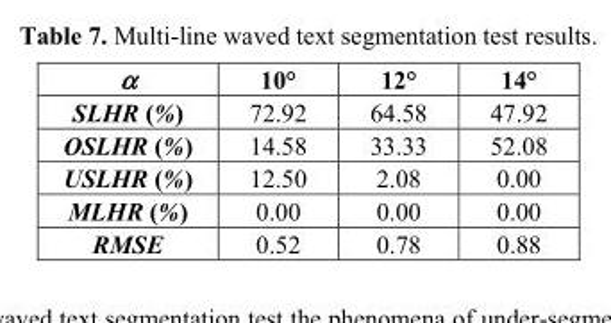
<table><thead><tr><td>α</td><td>10°</td><td>12°</td><td>14°</td></tr></thead><tbody><tr><td>SLHR (%)</td><td>72.92</td><td>64.58</td><td>47.92</td></tr><tr><td>OSLHR (%)</td><td>14.58</td><td>33.33</td><td>52.08</td></tr><tr><td>USLHR (%)</td><td>12.50</td><td>2.08</td><td>0.00</td></tr><tr><td>MLHR (%)</td><td>0.00</td><td>0.00</td><td>0.00</td></tr><tr><td>RMSE</td><td>0.52</td><td>0.78</td><td>0.88</td></tr></tbody></table>